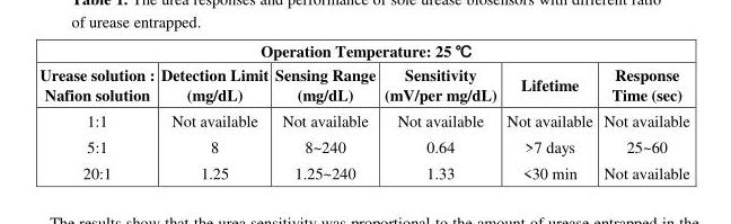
<table><thead><tr><td colspan="6">Operation Temperature: 25 ℃</td></tr><tr><td>Urease solution : Nafion solution</td><td>Detection Limit (mg/dL)</td><td>Sensing Range (mg/dL)</td><td>Sensitivity (mV/per mg/dL)</td><td>Lifetime</td><td>Response Time (sec)</td></tr></thead><tbody><tr><td>1:1</td><td>Not available</td><td>Not available</td><td>Not available</td><td>Not available</td><td>Not available</td></tr><tr><td>5:1</td><td>8</td><td>8~240</td><td>0.64</td><td>&gt;7 days</td><td>25~60</td></tr><tr><td>20:1</td><td>1.25</td><td>1.25~240</td><td>1.33</td><td>&lt;30 min</td><td>Not available</td></tr></tbody></table>